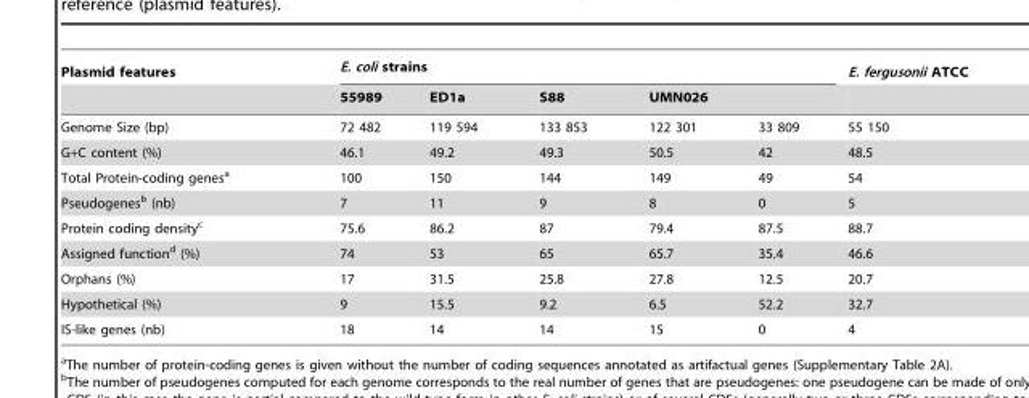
<table><thead><tr><td rowspan="3">Plasmid features Genome Size (bp)</td><td colspan="5">E. coli strains</td><td rowspan="3">E. fergusonii ATCC 55 150</td></tr><tr><td rowspan="2">55989 72 482</td><td rowspan="2">ED1a 119 594</td><td rowspan="2">S88 133 853</td><td colspan="2">UMN026</td></tr><tr><td>122 301</td><td>33 809</td></tr></thead><tbody><tr><td>G+C content (%)</td><td>46.1</td><td>49.2</td><td>49.3</td><td>50.5</td><td>42</td><td>48.5</td></tr><tr><td>Total Protein-coding genes<sup>a</sup></td><td>100</td><td>150</td><td>144</td><td>149</td><td>49</td><td>54</td></tr><tr><td>Pseudogenes<sup>b</sup> (nb)</td><td>7</td><td>11</td><td>9</td><td>8</td><td>0</td><td>5</td></tr><tr><td>Protein coding density<sup>c</sup></td><td>75.6</td><td>86.2</td><td>87</td><td>79.4</td><td>87.5</td><td>88.7</td></tr><tr><td>Assigned function<sup>d</sup> (%)</td><td>74</td><td>53</td><td>65</td><td>65.7</td><td>35.4</td><td>46.6</td></tr><tr><td>Orphans (%)</td><td>17</td><td>31.5</td><td>25.8</td><td>27.8</td><td>12.5</td><td>20.7</td></tr><tr><td>Hypothetical (%)</td><td>9</td><td>15.5</td><td>9.2</td><td>6.5</td><td>52.2</td><td>32.7</td></tr><tr><td>IS-like genes (nb)</td><td>18</td><td>14</td><td>14</td><td>15</td><td>0</td><td>4</td></tr></tbody></table>